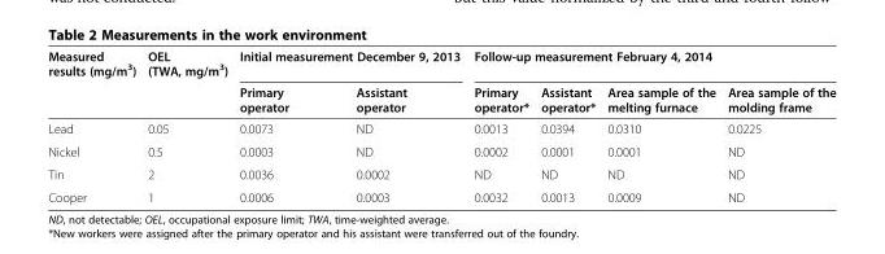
<table><thead><tr><td rowspan="2">Measured results (mg/m<sup>3</sup>)</td><td rowspan="2">OEL (TWA, mg/m<sup>3</sup>)</td><td colspan="2">Initial measurement December 9, 2013</td><td colspan="4">Follow-up measurement February 4, 2014</td></tr><tr><td>Primary operator</td><td>Assistant operator</td><td>Primary operator*</td><td>Assistant operator*</td><td>Area sample of the melting furnace</td><td>Area sample of the molding frame</td></tr></thead><tbody><tr><td>Lead</td><td>0.05</td><td>0.0073</td><td>ND</td><td>0.0013</td><td>0.0394</td><td>0.0310</td><td>0.0225</td></tr><tr><td>Nickel</td><td>0.5</td><td>0.0003</td><td>ND</td><td>0.0002</td><td>0.0001</td><td>0.0001</td><td>ND</td></tr><tr><td>Tin</td><td>2</td><td>0.0036</td><td>0.0002</td><td>ND</td><td>ND</td><td>ND</td><td>ND</td></tr><tr><td>Cooper</td><td>1</td><td>0.0006</td><td>0.0003</td><td>0.0032</td><td>0.0013</td><td>0.0009</td><td>ND</td></tr></tbody></table>